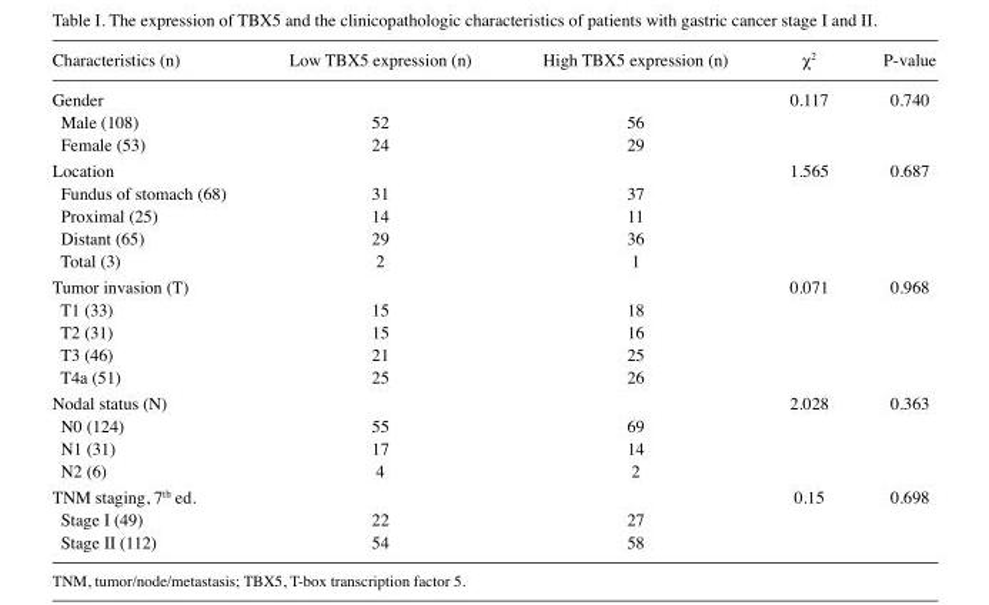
<table><thead><tr><td>Characteristics (n)</td><td>Low TBX5 expression (n)</td><td>High TBX5 expression (n)</td><td>χ<sup>2</sup></td><td>P-value</td></tr></thead><tbody><tr><td>Gender</td><td></td><td></td><td>0.117</td><td>0.740</td></tr><tr><td>Male (108)</td><td>52</td><td>56</td><td></td><td></td></tr><tr><td>Female (53)</td><td>24</td><td>29</td><td></td><td></td></tr><tr><td>Location</td><td></td><td></td><td>1.565</td><td>0.687</td></tr><tr><td>Fundus of stomach (68)</td><td>31</td><td>37</td><td></td><td></td></tr><tr><td>Proximal (25)</td><td>14</td><td>11</td><td></td><td></td></tr><tr><td>Distant (65)</td><td>29</td><td>36</td><td></td><td></td></tr><tr><td>Total (3)</td><td>2</td><td>1</td><td></td><td></td></tr><tr><td>Tumor invasion (T)</td><td></td><td></td><td>0.071</td><td>0.968</td></tr><tr><td>T1 (33)</td><td>15</td><td>18</td><td></td><td></td></tr><tr><td>T2 (31)</td><td>15</td><td>16</td><td></td><td></td></tr><tr><td>T3 (46)</td><td>21</td><td>25</td><td></td><td></td></tr><tr><td>T4a (51)</td><td>25</td><td>26</td><td></td><td></td></tr><tr><td>Nodal status (N)</td><td></td><td></td><td>2.028</td><td>0.363</td></tr><tr><td>N0 (124)</td><td>55</td><td>69</td><td></td><td></td></tr><tr><td>N1 (31)</td><td>17</td><td>14</td><td></td><td></td></tr><tr><td>N2 (6)</td><td>4</td><td>2</td><td></td><td></td></tr><tr><td>TNM staging, 7<sup>th</sup> ed.</td><td></td><td></td><td>0.15</td><td>0.698</td></tr><tr><td>Stage Ⅰ (49)</td><td>22</td><td>27</td><td></td><td></td></tr><tr><td>Stage Ⅱ (112)</td><td>54</td><td>58</td><td></td><td></td></tr></tbody></table>